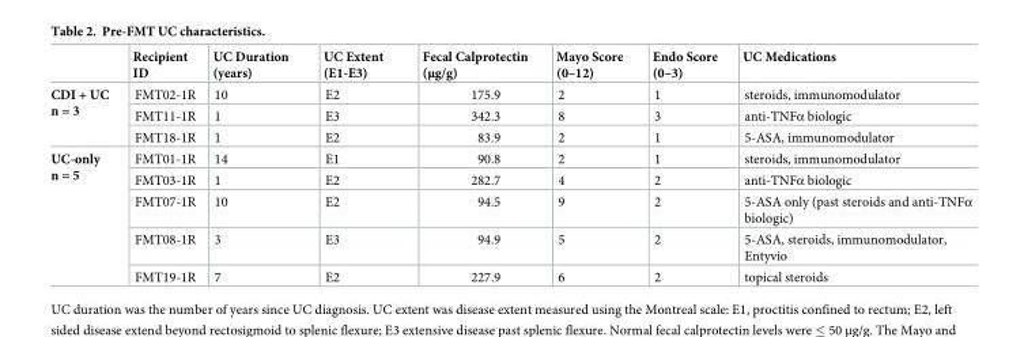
<table><thead><tr><td></td><td>Recipient ID</td><td>UC Duration (years)</td><td>UC Extent (E1-E3)</td><td>Fecal Calprotectin (μg/g)</td><td>Mayo Score (0–12)</td><td>Endo Score (0–3)</td><td>UC Medications</td></tr></thead><tbody><tr><td rowspan="3">CDI + UC n = 3</td><td>FMT02-1R</td><td>10</td><td>E2</td><td>175.9</td><td>2</td><td>1</td><td>steroids, immunomodulator</td></tr><tr><td>FMT11-1R</td><td>1</td><td>E3</td><td>342.3</td><td>8</td><td>3</td><td>anti-TNFα biologic</td></tr><tr><td>FMT18-1R</td><td>1</td><td>E2</td><td>83.9</td><td>2</td><td>1</td><td>5-ASA, immunomodulator</td></tr><tr><td rowspan="5">UC-only n = 5</td><td>FMT01-1R</td><td>14</td><td>E1</td><td>90.8</td><td>2</td><td>1</td><td>steroids, immunomodulator</td></tr><tr><td>FMT03-1R</td><td>1</td><td>E2</td><td>282.7</td><td>4</td><td>2</td><td>anti-TNFα biologic</td></tr><tr><td>FMT07-1R</td><td>10</td><td>E2</td><td>94.5</td><td>9</td><td>2</td><td>5-ASA only (past steroids and anti-TNFα biologic)</td></tr><tr><td>FMT08-1R</td><td>3</td><td>E3</td><td>94.9</td><td>5</td><td>2</td><td>5-ASA, steroids, immunomodulator, Entyvio</td></tr><tr><td>FMT19-1R</td><td>7</td><td>E2</td><td>227.9</td><td>6</td><td>2</td><td>topical steroids</td></tr></tbody></table>